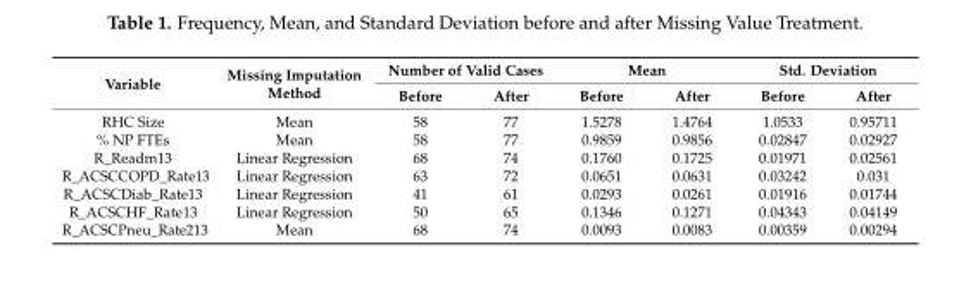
<table><thead><tr><td rowspan="2">Variable</td><td rowspan="2">Missing Imputation Method</td><td colspan="2">Number of Valid Cases</td><td colspan="2">Mean</td><td colspan="2">Std. Deviation</td></tr><tr><td>Before</td><td>After</td><td>Before</td><td>After</td><td>Before</td><td>After</td></tr></thead><tbody><tr><td>RHC Size</td><td>Mean</td><td>58</td><td>77</td><td>1.5278</td><td>1.4764</td><td>1.0533</td><td>0.95711</td></tr><tr><td>% NP FTEs</td><td>Mean</td><td>58</td><td>77</td><td>0.9859</td><td>0.9856</td><td>0.02847</td><td>0.02927</td></tr><tr><td>R_Readm13</td><td>Linear Regression</td><td>68</td><td>74</td><td>0.1760</td><td>0.1725</td><td>0.01971</td><td>0.02561</td></tr><tr><td>R_ACSCCOPD_Rate13</td><td>Linear Regression</td><td>63</td><td>72</td><td>0.0651</td><td>0.0631</td><td>0.03242</td><td>0.031</td></tr><tr><td>R_ACSCDiab_Rate13</td><td>Linear Regression</td><td>41</td><td>61</td><td>0.0293</td><td>0.0261</td><td>0.01916</td><td>0.01744</td></tr><tr><td>R_ACSCHF_Rate13</td><td>Linear Regression</td><td>50</td><td>65</td><td>0.1346</td><td>0.1271</td><td>0.04343</td><td>0.04149</td></tr><tr><td>R_ACSCPneu_Rate213</td><td>Mean</td><td>68</td><td>74</td><td>0.0093</td><td>0.0083</td><td>0.00359</td><td>0.00294</td></tr></tbody></table>